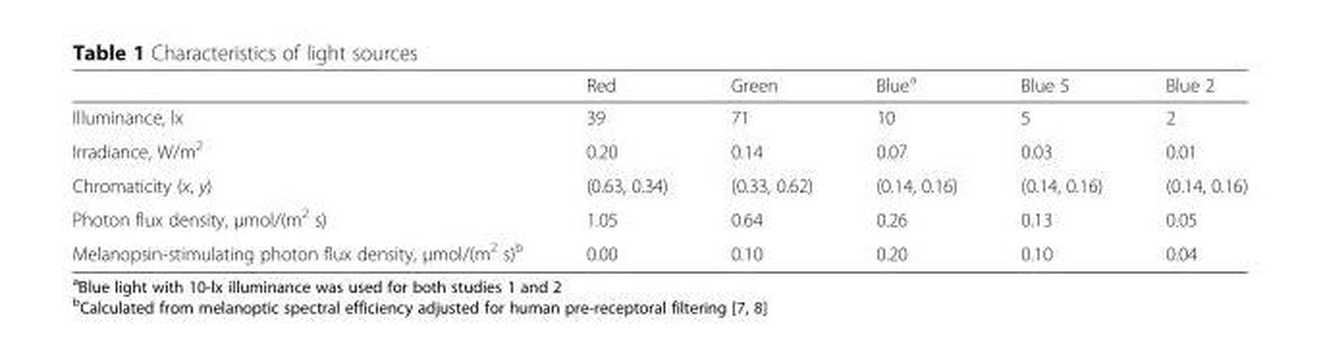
<table><thead><tr><td></td><td>Red</td><td>Green</td><td>Blue<sup>a</sup></td><td>Blue 5</td><td>Blue 2</td></tr></thead><tbody><tr><td>Illuminance, lx</td><td>39</td><td>71</td><td>10</td><td>5</td><td>2</td></tr><tr><td>Irradiance, W/m<sup>2</sup></td><td>0.20</td><td>0.14</td><td>0.07</td><td>0.03</td><td>0.01</td></tr><tr><td>Chromaticity (x, y)</td><td>(0.63, 0.34)</td><td>(0.33, 0.62)</td><td>(0.14, 0.16)</td><td>(0.14, 0.16)</td><td>(0.14, 0.16)</td></tr><tr><td>Photon flux density, μmol/(m<sup>2</sup> s)</td><td>1.05</td><td>0.64</td><td>0.26</td><td>0.13</td><td>0.05</td></tr><tr><td>Melanopsin-stimulating photon flux density, μmol/(m<sup>2</sup> s)<sup>b</sup></td><td>0.00</td><td>0.10</td><td>0.20</td><td>0.10</td><td>0.04</td></tr></tbody></table>